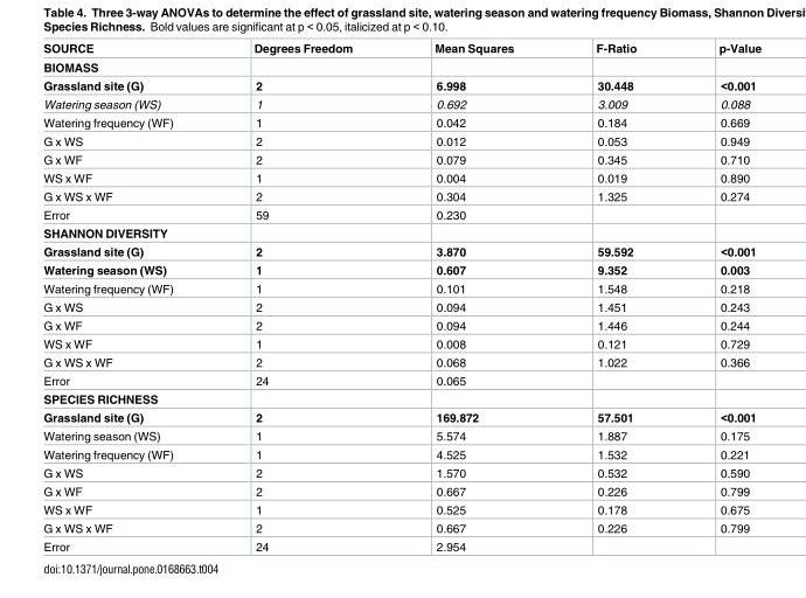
<table><thead><tr><td>SOURCE</td><td>Degrees Freedom</td><td>Mean Squares</td><td>F-Ratio</td><td>p-Value</td></tr></thead><tbody><tr><td colspan="5">BIOMASS</td></tr><tr><td>Grassland site (G)</td><td>2</td><td>6.998</td><td>30.448</td><td>&lt;0.001</td></tr><tr><td>Watering season (WS)</td><td>1</td><td>0.692</td><td>3.009</td><td>0.088</td></tr><tr><td>Watering frequency (WF)</td><td>1</td><td>0.042</td><td>0.184</td><td>0.669</td></tr><tr><td>G x WS</td><td>2</td><td>0.012</td><td>0.053</td><td>0.949</td></tr><tr><td>G x WF</td><td>2</td><td>0.079</td><td>0.345</td><td>0.710</td></tr><tr><td>WS x WF</td><td>1</td><td>0.004</td><td>0.019</td><td>0.890</td></tr><tr><td>G x WS x WF</td><td>2</td><td>0.304</td><td>1.325</td><td>0.274</td></tr><tr><td>Error</td><td>59</td><td>0.230</td><td></td><td></td></tr><tr><td colspan="5">SHANNON DIVERSITY</td></tr><tr><td>Grassland site (G)</td><td>2</td><td>3.870</td><td>59.592</td><td>&lt;0.001</td></tr><tr><td>Watering season (WS)</td><td>1</td><td>0.607</td><td>9.352</td><td>0.003</td></tr><tr><td>Watering frequency (WF)</td><td>1</td><td>0.101</td><td>1.548</td><td>0.218</td></tr><tr><td>G x WS</td><td>2</td><td>0.094</td><td>1.451</td><td>0.243</td></tr><tr><td>G x WF</td><td>2</td><td>0.094</td><td>1.446</td><td>0.244</td></tr><tr><td>WS x WF</td><td>1</td><td>0.008</td><td>0.121</td><td>0.729</td></tr><tr><td>G x WS x WF</td><td>2</td><td>0.068</td><td>1.022</td><td>0.366</td></tr><tr><td>Error</td><td>24</td><td>0.065</td><td></td><td></td></tr><tr><td colspan="5">SPECIES RICHNESS</td></tr><tr><td>Grassland site (G)</td><td>2</td><td>169.872</td><td>57.501</td><td>&lt;0.001</td></tr><tr><td>Watering season (WS)</td><td>1</td><td>5.574</td><td>1.887</td><td>0.175</td></tr><tr><td>Watering frequency (WF)</td><td>1</td><td>4.525</td><td>1.532</td><td>0.221</td></tr><tr><td>G x WS</td><td>2</td><td>1.570</td><td>0.532</td><td>0.590</td></tr><tr><td>G x WF</td><td>2</td><td>0.667</td><td>0.226</td><td>0.799</td></tr><tr><td>WS x WF</td><td>1</td><td>0.525</td><td>0.178</td><td>0.675</td></tr><tr><td>G x WS x WF</td><td>2</td><td>0.667</td><td>0.226</td><td>0.799</td></tr><tr><td>Error</td><td>24</td><td>2.954</td><td></td><td></td></tr></tbody></table>